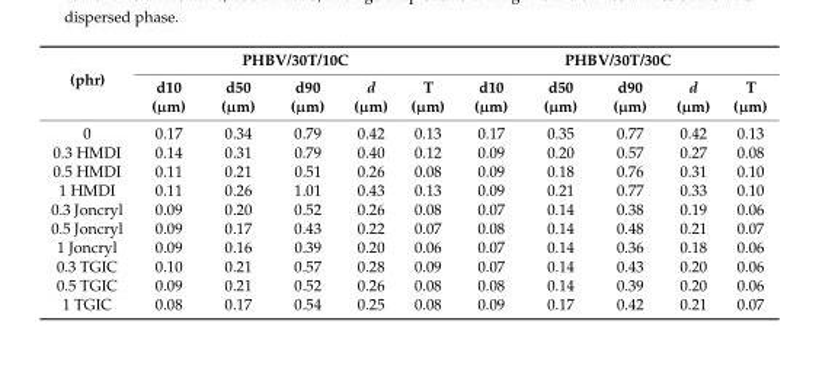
<table><thead><tr><td rowspan="2">(phr)</td><td colspan="5">PHBV/30T/10C</td><td colspan="5">PHBV/30T/30C</td></tr><tr><td>d10 (µm)</td><td>d50 (µm)</td><td>d90 (µm)</td><td>d (µm)</td><td>T (µm)</td><td>d10 (µm)</td><td>d50 (µm)</td><td>d90 (µm)</td><td>d (µm)</td><td>T (µm)</td></tr></thead><tbody><tr><td>0</td><td>0.17</td><td>0.34</td><td>0.79</td><td>0.42</td><td>0.13</td><td>0.17</td><td>0.35</td><td>0.77</td><td>0.42</td><td>0.13</td></tr><tr><td>0.3 HMDI</td><td>0.14</td><td>0.31</td><td>0.79</td><td>0.40</td><td>0.12</td><td>0.09</td><td>0.20</td><td>0.57</td><td>0.27</td><td>0.08</td></tr><tr><td>0.5 HMDI</td><td>0.11</td><td>0.21</td><td>0.51</td><td>0.26</td><td>0.08</td><td>0.09</td><td>0.18</td><td>0.76</td><td>0.31</td><td>0.10</td></tr><tr><td>1 HMDI</td><td>0.11</td><td>0.26</td><td>1.01</td><td>0.43</td><td>0.13</td><td>0.09</td><td>0.21</td><td>0.77</td><td>0.33</td><td>0.10</td></tr><tr><td>0.3 Joncryl</td><td>0.09</td><td>0.20</td><td>0.52</td><td>0.26</td><td>0.08</td><td>0.07</td><td>0.14</td><td>0.38</td><td>0.19</td><td>0.06</td></tr><tr><td>0.5 Joncryl</td><td>0.09</td><td>0.17</td><td>0.43</td><td>0.22</td><td>0.07</td><td>0.08</td><td>0.14</td><td>0.48</td><td>0.21</td><td>0.07</td></tr><tr><td>1 Joncryl</td><td>0.09</td><td>0.16</td><td>0.39</td><td>0.20</td><td>0.06</td><td>0.07</td><td>0.14</td><td>0.36</td><td>0.18</td><td>0.06</td></tr><tr><td>0.3 TGIC</td><td>0.10</td><td>0.21</td><td>0.57</td><td>0.28</td><td>0.09</td><td>0.07</td><td>0.14</td><td>0.43</td><td>0.20</td><td>0.06</td></tr><tr><td>0.5 TGIC</td><td>0.09</td><td>0.21</td><td>0.52</td><td>0.26</td><td>0.08</td><td>0.08</td><td>0.14</td><td>0.39</td><td>0.20</td><td>0.06</td></tr><tr><td>1 TGIC</td><td>0.08</td><td>0.17</td><td>0.54</td><td>0.25</td><td>0.08</td><td>0.09</td><td>0.17</td><td>0.42</td><td>0.21</td><td>0.07</td></tr></tbody></table>